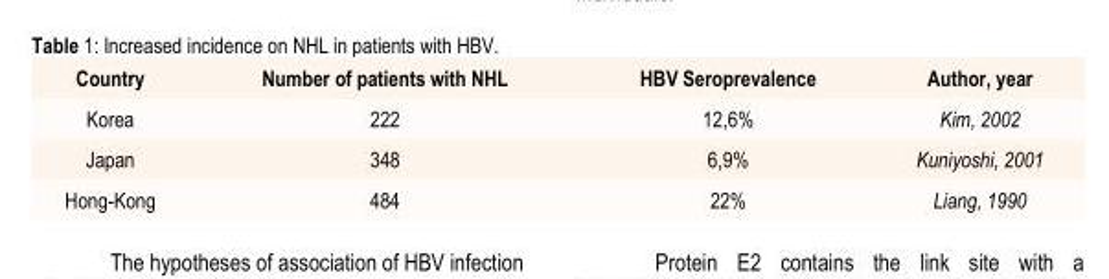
<table><thead><tr><td rowspan="4">Country Korea Japan Hong-Kong</td><td rowspan="4">Number of patients with NHL 222 348 484</td><td rowspan="4">HBV Seroprevalence 12,6% 6,9% 22%</td><td rowspan="4">Author, year Kim, 2002 Kuniyoshi, 2001 Liang, 1990</td></tr><tr></tr><tr></tr><tr></tr></thead><tbody></tbody></table>